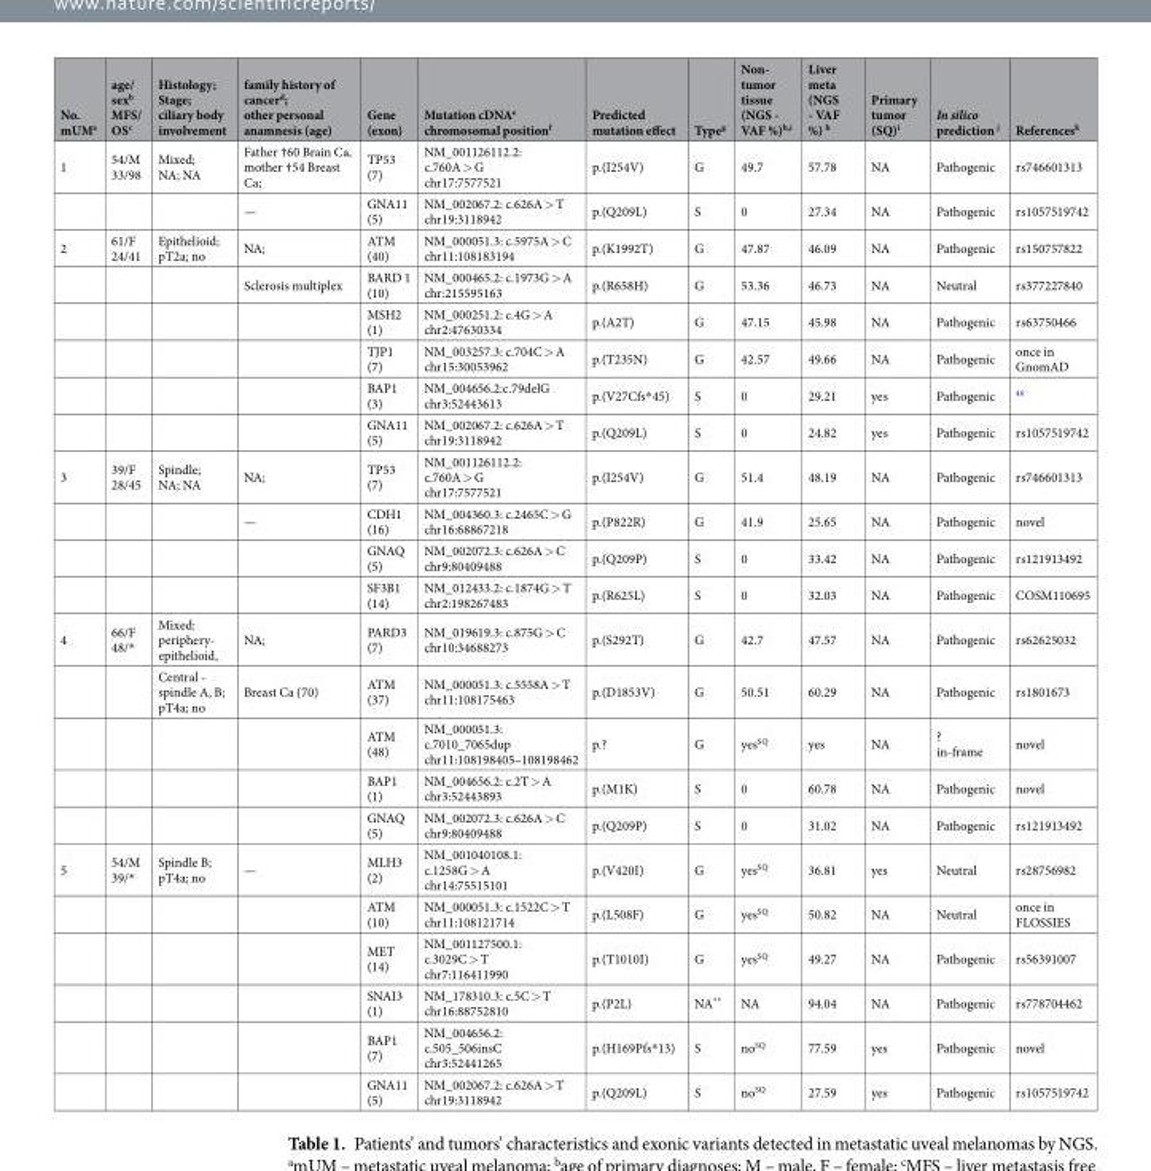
<table><thead><tr><td>No. mUM<sup>a</sup></td><td>age/ sex<sup>b</sup> MFS/ OS<sup>c</sup></td><td>Histology; Stage; ciliary body involvement</td><td>family history of cancer<sup>d</sup>; other personal anamnesis (age)</td><td>Gene (exon)</td><td>Mutation cDNA<sup>e</sup> chromosomal position<sup>f</sup></td><td>Predicted mutation effect</td><td>Type<sup>g</sup></td><td>Non- tumor tissue (NGS - VAF %)<sup>h,i</sup></td><td>Liver meta (NGS - VAF %) <sup>h</sup></td><td>Primary tumor (SQ)<sup>i</sup></td><td>In silico prediction <sup>j</sup></td><td>References<sup>k</sup></td></tr></thead><tbody><tr><td rowspan="2">1</td><td>54/M 33/98</td><td>Mixed; NA; NA</td><td>Father †60 Brain Ca, mother †54 Breast Ca;</td><td>TP53 (7)</td><td>NM_001126112.2: c.760A &gt; G chr17:7577521</td><td>p.(I254V)</td><td>G</td><td>49.7</td><td>57.78</td><td>NA</td><td>Pathogenic</td><td>rs746601313</td></tr><tr><td></td><td></td><td>—</td><td>GNA11 (5)</td><td>NM_002067.2: c.626A &gt; T chr19:3118942</td><td>p.(Q209L)</td><td>S</td><td>0</td><td>27.34</td><td>NA</td><td>Pathogenic</td><td>rs1057519742</td></tr><tr><td rowspan="6">2</td><td>61/F 24/41</td><td>Epithelioid; pT2a; no</td><td>NA;</td><td>ATM (40)</td><td>NM_000051.3: c.5975A &gt; C chr11:108183194</td><td>p.(K1992T)</td><td>G</td><td>47.87</td><td>46.09</td><td>NA</td><td>Pathogenic</td><td>rs150757822</td></tr><tr><td></td><td></td><td>Sclerosis multiplex</td><td>BARD 1 (10)</td><td>NM_000465.2: c.1973G &gt; A chr:215595163</td><td>p.(R658H)</td><td>G</td><td>53.36</td><td>46.73</td><td>NA</td><td>Neutral</td><td>rs377227840</td></tr><tr><td></td><td></td><td></td><td>MSH2 (1)</td><td>NM_000251.2: c.4G &gt; A chr2:47630334</td><td>p.(A2T)</td><td>G</td><td>47.15</td><td>45.98</td><td>NA</td><td>Pathogenic</td><td>rs63750466</td></tr><tr><td></td><td></td><td></td><td>TJP1 (7)</td><td>NM_003257.3: c.704C &gt; A chr15:30053962</td><td>p.(T235N)</td><td>G</td><td>42.57</td><td>49.66</td><td>NA</td><td>Pathogenic</td><td>once in GnomAD</td></tr><tr><td></td><td></td><td></td><td>BAP1 (3)</td><td>NM_004656.2:c.79delG chr3:52443613</td><td>p.(V27Cfs*45)</td><td>S</td><td>0</td><td>29.21</td><td>yes</td><td>Pathogenic</td><td><sup>46</sup></td></tr><tr><td></td><td></td><td></td><td>GNA11 (5)</td><td>NM_002067.2: c.626A &gt; T chr19:3118942</td><td>p.(Q209L)</td><td>S</td><td>0</td><td>24.82</td><td>yes</td><td>Pathogenic</td><td>rs1057519742</td></tr><tr><td rowspan="4">3</td><td>39/F 28/45</td><td>Spindle; NA; NA</td><td>NA;</td><td>TP53 (7)</td><td>NM_001126112.2: c.760A &gt; G chr17:7577521</td><td>p.(I254V)</td><td>G</td><td>51.4</td><td>48.19</td><td>NA</td><td>Pathogenic</td><td>rs746601313</td></tr><tr><td></td><td></td><td>—</td><td>CDH1 (16)</td><td>NM_004360.3: c.2465C &gt; G chr16:68867218</td><td>p.(P822R)</td><td>G</td><td>41.9</td><td>25.65</td><td>NA</td><td>Pathogenic</td><td>novel</td></tr><tr><td></td><td></td><td></td><td>GNAQ (5)</td><td>NM_002072.3: c.626A &gt; C chr9:80409488</td><td>p.(Q209P)</td><td>S</td><td>0</td><td>33.42</td><td>NA</td><td>Pathogenic</td><td>rs121913492</td></tr><tr><td></td><td></td><td></td><td>SF3B1 (14)</td><td>NM_012433.2: c.1874G &gt; T chr2:198267483</td><td>p.(R625L)</td><td>S</td><td>0</td><td>32.03</td><td>NA</td><td>Pathogenic</td><td>COSM110695</td></tr><tr><td rowspan="5">4</td><td>66/F 48/*</td><td>Mixed: periphery- epithelioid,</td><td>NA;</td><td>PARD3 (7)</td><td>NM_019619.3: c.875G &gt; C chr10:34688273</td><td>p.(S292T)</td><td>G</td><td>42.7</td><td>47.57</td><td>NA</td><td>Pathogenic</td><td>rs62625032</td></tr><tr><td></td><td>Central - spindle A, B; pT4a; no</td><td>Breast Ca (70)</td><td>ATM (37)</td><td>NM_000051.3: c.5558A &gt; T chr11:108175463</td><td>p.(D1853V)</td><td>G</td><td>50.51</td><td>60.29</td><td>NA</td><td>Pathogenic</td><td>rs1801673</td></tr><tr><td></td><td></td><td></td><td>ATM (48)</td><td>NM_000051.3: c.7010_7065dup chr11:108198405–108198462</td><td>p.?</td><td>G</td><td>yes<sup>SQ</sup></td><td>yes</td><td>NA</td><td>? in-frame</td><td>novel</td></tr><tr><td></td><td></td><td></td><td>BAP1 (1)</td><td>NM_004656.2: c.2T &gt; A chr3:52443893</td><td>p.(M1K)</td><td>S</td><td>0</td><td>60.78</td><td>NA</td><td>Pathogenic</td><td>novel</td></tr><tr><td></td><td></td><td></td><td>GNAQ (5)</td><td>NM_002072.3: c.626A &gt; C chr9:80409488</td><td>p.(Q209P)</td><td>S</td><td>0</td><td>31.02</td><td>NA</td><td>Pathogenic</td><td>rs121913492</td></tr><tr><td rowspan="6">5</td><td>54/M 39/*</td><td>Spindle B; pT4a; no</td><td>—</td><td>MLH3 (2)</td><td>NM_001040108.1: c.1258G &gt; A chr14:75515101</td><td>p.(V420I)</td><td>G</td><td>yes<sup>SQ</sup></td><td>36.81</td><td>yes</td><td>Neutral</td><td>rs28756982</td></tr><tr><td></td><td></td><td></td><td>ATM (10)</td><td>NM_000051.3: c.1522C &gt; T chr11:108121714</td><td>p.(L508F)</td><td>G</td><td>yes<sup>SQ</sup></td><td>50.82</td><td>NA</td><td>Neutral</td><td>once in FLOSSIES</td></tr><tr><td></td><td></td><td></td><td>MET (14)</td><td>NM_001127500.1: c.3029C &gt; T chr7:116411990</td><td>p.(T1010I)</td><td>G</td><td>yes<sup>SQ</sup></td><td>49.27</td><td>NA</td><td>Pathogenic</td><td>rs56391007</td></tr><tr><td></td><td></td><td></td><td>SNAI3 (1)</td><td>NM_178310.3: c.5C &gt; T chr16:88752810</td><td>p.(P2L)</td><td>NA**</td><td>NA</td><td>94.04</td><td>NA</td><td>Pathogenic</td><td>rs778704462</td></tr><tr><td></td><td></td><td></td><td>BAP1 (7)</td><td>NM_004656.2: c.505_506insC chr3:52441265</td><td>p.(H169Pfs*13)</td><td>S</td><td>no<sup>SQ</sup></td><td>77.59</td><td>yes</td><td>Pathogenic</td><td>novel</td></tr><tr><td></td><td></td><td></td><td>GNA11 (5)</td><td>NM_002067.2: c.626A &gt; T chr19:3118942</td><td>p.(Q209L)</td><td>S</td><td>no<sup>SQ</sup></td><td>27.59</td><td>yes</td><td>Pathogenic</td><td>rs1057519742</td></tr></tbody></table>